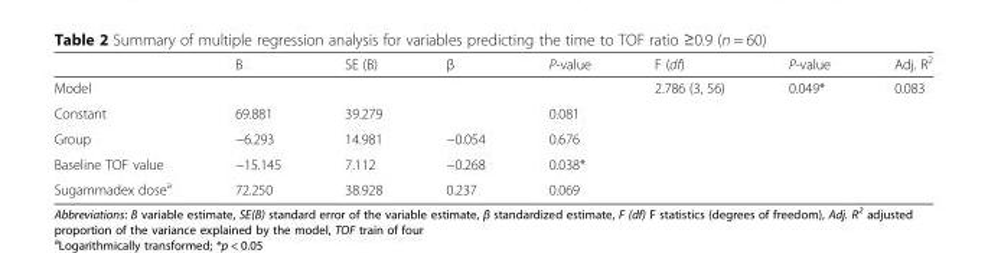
<table><thead><tr><td></td><td>B</td><td>SE (B)</td><td>β</td><td>P-value</td><td>F (df)</td><td>P-value</td><td>Adj. R<sup>2</sup></td></tr></thead><tbody><tr><td>Model</td><td></td><td></td><td></td><td></td><td>2.786 (3, 56)</td><td>0.049*</td><td>0.083</td></tr><tr><td>Constant</td><td>69.881</td><td>39.279</td><td></td><td>0.081</td><td></td><td></td><td></td></tr><tr><td>Group</td><td>−6.293</td><td>14.981</td><td>−0.054</td><td>0.676</td><td></td><td></td><td></td></tr><tr><td>Baseline TOF value</td><td>−15.145</td><td>7.112</td><td>−0.268</td><td>0.038*</td><td></td><td></td><td></td></tr><tr><td>Sugammadex dose<sup>a</sup></td><td>72.250</td><td>38.928</td><td>0.237</td><td>0.069</td><td></td><td></td><td></td></tr></tbody></table>